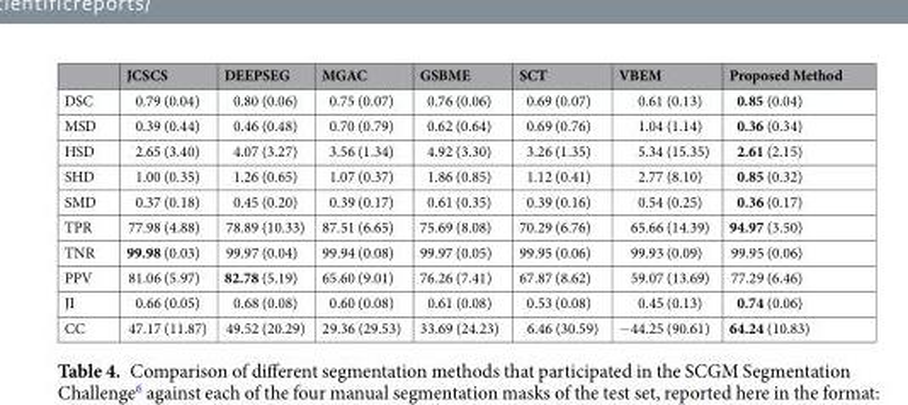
<table><thead><tr><td></td><td>JCSCS</td><td>DEEPSEG</td><td>MGAC</td><td>GSBME</td><td>SCT</td><td>VBEM</td><td>Proposed Method</td></tr></thead><tbody><tr><td>DSC</td><td>0.79 (0.04)</td><td>0.80 (0.06)</td><td>0.75 (0.07)</td><td>0.76 (0.06)</td><td>0.69 (0.07)</td><td>0.61 (0.13)</td><td>0.85 (0.04)</td></tr><tr><td>MSD</td><td>0.39 (0.44)</td><td>0.46 (0.48)</td><td>0.70 (0.79)</td><td>0.62 (0.64)</td><td>0.69 (0.76)</td><td>1.04 (1.14)</td><td>0.36 (0.34)</td></tr><tr><td>HSD</td><td>2.65 (3.40)</td><td>4.07 (3.27)</td><td>3.56 (1.34)</td><td>4.92 (3.30)</td><td>3.26 (1.35)</td><td>5.34 (15.35)</td><td>2.61 (2.15)</td></tr><tr><td>SHD</td><td>1.00 (0.35)</td><td>1.26 (0.65)</td><td>1.07 (0.37)</td><td>1.86 (0.85)</td><td>1.12 (0.41)</td><td>2.77 (8.10)</td><td>0.85 (0.32)</td></tr><tr><td>SMD</td><td>0.37 (0.18)</td><td>0.45 (0.20)</td><td>0.39 (0.17)</td><td>0.61 (0.35)</td><td>0.39 (0.16)</td><td>0.54 (0.25)</td><td>0.36 (0.17)</td></tr><tr><td>TPR</td><td>77.98 (4.88)</td><td>78.89 (10.33)</td><td>87.51 (6.65)</td><td>75.69 (8.08)</td><td>70.29 (6.76)</td><td>65.66 (14.39)</td><td>94.97 (3.50)</td></tr><tr><td>TNR</td><td>99.98 (0.03)</td><td>99.97 (0.04)</td><td>99.94 (0.08)</td><td>99.97 (0.05)</td><td>99.95 (0.06)</td><td>99.93 (0.09)</td><td>99.95 (0.06)</td></tr><tr><td>PPV</td><td>81.06 (5.97)</td><td>82.78 (5.19)</td><td>65.60 (9.01)</td><td>76.26 (7.41)</td><td>67.87 (8.62)</td><td>59.07 (13.69)</td><td>77.29 (6.46)</td></tr><tr><td>JI</td><td>0.66 (0.05)</td><td>0.68 (0.08)</td><td>0.60 (0.08)</td><td>0.61 (0.08)</td><td>0.53 (0.08)</td><td>0.45 (0.13)</td><td>0.74 (0.06)</td></tr><tr><td>CC</td><td>47.17 (11.87)</td><td>49.52 (20.29)</td><td>29.36 (29.53)</td><td>33.69 (24.23)</td><td>6.46 (30.59)</td><td>−44.25 (90.61)</td><td>64.24 (10.83)</td></tr></tbody></table>